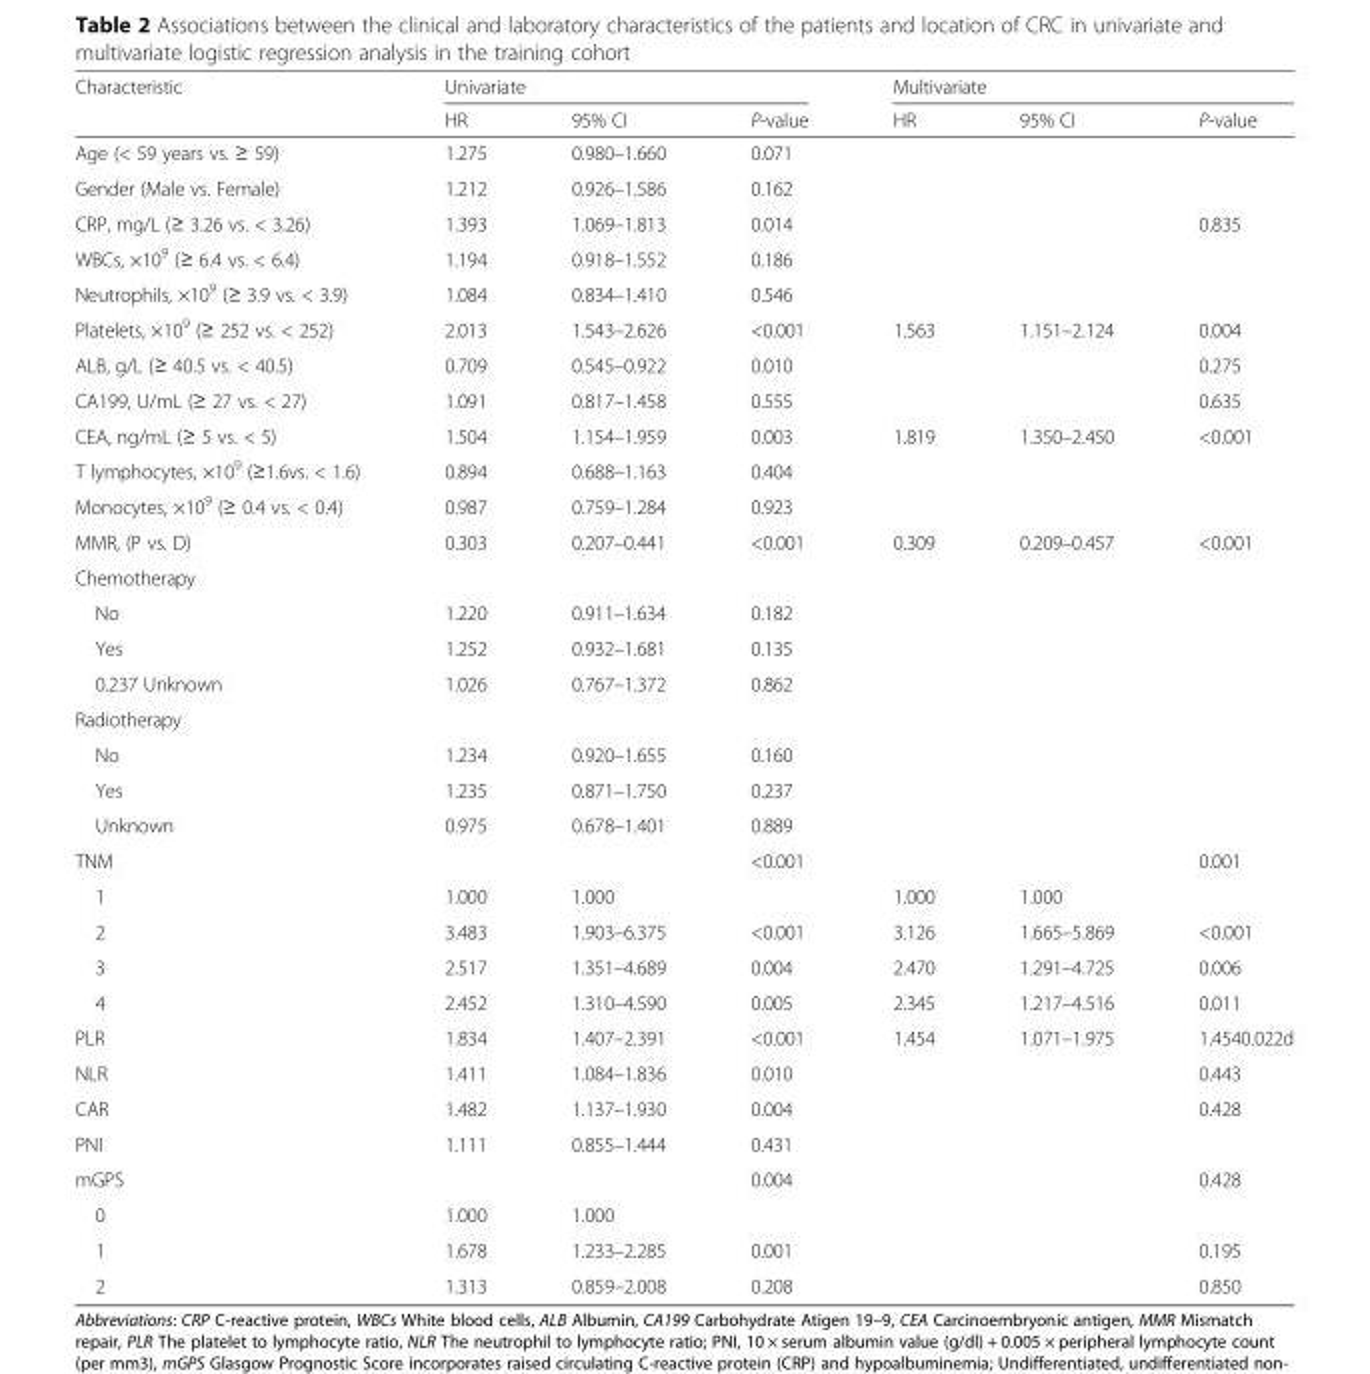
<table><thead><tr><td rowspan="2">Characteristic</td><td colspan="3">Univariate</td><td colspan="3">Multivariate</td></tr><tr><td>HR</td><td>95% CI</td><td>P-value</td><td>HR</td><td>95% CI</td><td>P-value</td></tr></thead><tbody><tr><td>Age (&lt; 59 years vs. ≥ 59)</td><td>1.275</td><td>0.980–1.660</td><td>0.071</td><td></td><td></td><td></td></tr><tr><td>Gender (Male vs. Female)</td><td>1.212</td><td>0.926–1.586</td><td>0.162</td><td></td><td></td><td></td></tr><tr><td>CRP, mg/L (≥ 3.26 vs. &lt; 3.26)</td><td>1.393</td><td>1.069–1.813</td><td>0.014</td><td></td><td></td><td>0.835</td></tr><tr><td>WBCs, ×10<sup>9</sup> (≥ 6.4 vs. &lt; 6.4)</td><td>1.194</td><td>0.918–1.552</td><td>0.186</td><td></td><td></td><td></td></tr><tr><td>Neutrophils, ×10<sup>9</sup> (≥ 3.9 vs. &lt; 3.9)</td><td>1.084</td><td>0.834–1.410</td><td>0.546</td><td></td><td></td><td></td></tr><tr><td>Platelets, ×10<sup>9</sup> (≥ 252 vs. &lt; 252)</td><td>2.013</td><td>1.543–2.626</td><td>&lt;0.001</td><td>1.563</td><td>1.151–2.124</td><td>0.004</td></tr><tr><td>ALB, g/L (≥ 40.5 vs. &lt; 40.5)</td><td>0.709</td><td>0.545–0.922</td><td>0.010</td><td></td><td></td><td>0.275</td></tr><tr><td>CA199, U/mL (≥ 27 vs. &lt; 27)</td><td>1.091</td><td>0.817–1.458</td><td>0.555</td><td></td><td></td><td>0.635</td></tr><tr><td>CEA, ng/mL (≥ 5 vs. &lt; 5)</td><td>1.504</td><td>1.154–1.959</td><td>0.003</td><td>1.819</td><td>1.350–2.450</td><td>&lt;0.001</td></tr><tr><td>T lymphocytes, ×10<sup>9</sup> (≥1.6vs. &lt; 1.6)</td><td>0.894</td><td>0.688–1.163</td><td>0.404</td><td></td><td></td><td></td></tr><tr><td>Monocytes, ×10<sup>9</sup> (≥ 0.4 vs. &lt; 0.4)</td><td>0.987</td><td>0.759–1.284</td><td>0.923</td><td></td><td></td><td></td></tr><tr><td>MMR, (P vs. D)</td><td>0.303</td><td>0.207–0.441</td><td>&lt;0.001</td><td>0.309</td><td>0.209–0.457</td><td>&lt;0.001</td></tr><tr><td colspan="7">Chemotherapy</td></tr><tr><td>No</td><td>1.220</td><td>0.911–1.634</td><td>0.182</td><td></td><td></td><td></td></tr><tr><td>Yes</td><td>1.252</td><td>0.932–1.681</td><td>0.135</td><td></td><td></td><td></td></tr><tr><td>0.237 Unknown</td><td>1.026</td><td>0.767–1.372</td><td>0.862</td><td></td><td></td><td></td></tr><tr><td colspan="7">Radiotherapy</td></tr><tr><td>No</td><td>1.234</td><td>0.920–1.655</td><td>0.160</td><td></td><td></td><td></td></tr><tr><td>Yes</td><td>1.235</td><td>0.871–1.750</td><td>0.237</td><td></td><td></td><td></td></tr><tr><td>Unknown</td><td>0.975</td><td>0.678–1.401</td><td>0.889</td><td></td><td></td><td></td></tr><tr><td>TNM</td><td></td><td></td><td>&lt;0.001</td><td></td><td></td><td>0.001</td></tr><tr><td>1</td><td>1.000</td><td>1.000</td><td></td><td>1.000</td><td>1.000</td><td></td></tr><tr><td>2</td><td>3.483</td><td>1.903–6.375</td><td>&lt;0.001</td><td>3.126</td><td>1.665–5.869</td><td>&lt;0.001</td></tr><tr><td>3</td><td>2.517</td><td>1.351–4.689</td><td>0.004</td><td>2.470</td><td>1.291–4.725</td><td>0.006</td></tr><tr><td>4</td><td>2.452</td><td>1.310–4.590</td><td>0.005</td><td>2.345</td><td>1.217–4.516</td><td>0.011</td></tr><tr><td>PLR</td><td>1.834</td><td>1.407–2.391</td><td>&lt;0.001</td><td>1.454</td><td>1.071–1.975</td><td>1.4540.022d</td></tr><tr><td>NLR</td><td>1.411</td><td>1.084–1.836</td><td>0.010</td><td></td><td></td><td>0.443</td></tr><tr><td>CAR</td><td>1.482</td><td>1.137–1.930</td><td>0.004</td><td></td><td></td><td>0.428</td></tr><tr><td>PNI</td><td>1.111</td><td>0.855–1.444</td><td>0.431</td><td></td><td></td><td></td></tr><tr><td>mGPS</td><td></td><td></td><td>0.004</td><td></td><td></td><td>0.428</td></tr><tr><td>0</td><td>1.000</td><td>1.000</td><td></td><td></td><td></td><td></td></tr><tr><td>1</td><td>1.678</td><td>1.233–2.285</td><td>0.001</td><td></td><td></td><td>0.195</td></tr><tr><td>2</td><td>1.313</td><td>0.859–2.008</td><td>0.208</td><td></td><td></td><td>0.850</td></tr></tbody></table>